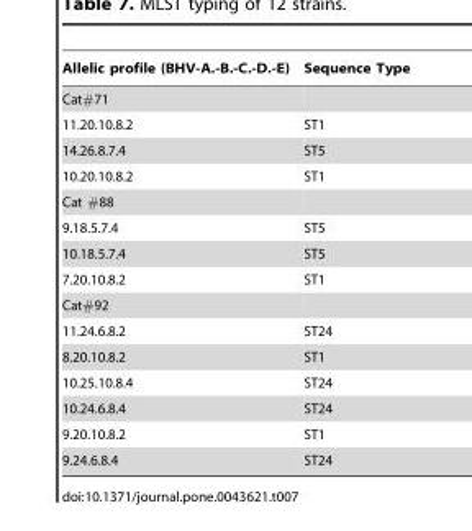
<table><thead><tr><td>Allelic profile (BHV-A.-B.-C.-D.-E)</td><td>Sequence Type</td></tr></thead><tbody><tr><td colspan="2">Cat#71</td></tr><tr><td>11.20.10.8.2</td><td>ST1</td></tr><tr><td>14.26.8.7.4</td><td>ST5</td></tr><tr><td>10.20.10.8.2</td><td>ST1</td></tr><tr><td colspan="2">Cat #88</td></tr><tr><td>9.18.5.7.4</td><td>ST5</td></tr><tr><td>10.18.5.7.4</td><td>ST5</td></tr><tr><td>7.20.10.8.2</td><td>ST1</td></tr><tr><td colspan="2">Cat#92</td></tr><tr><td>11.24.6.8.2</td><td>ST24</td></tr><tr><td>8.20.10.8.2</td><td>ST1</td></tr><tr><td>10.25.10.8.4</td><td>ST24</td></tr><tr><td>10.24.6.8.4</td><td>ST24</td></tr><tr><td>9.20.10.8.2</td><td>ST1</td></tr><tr><td>9.24.6.8.4</td><td>ST24</td></tr></tbody></table>